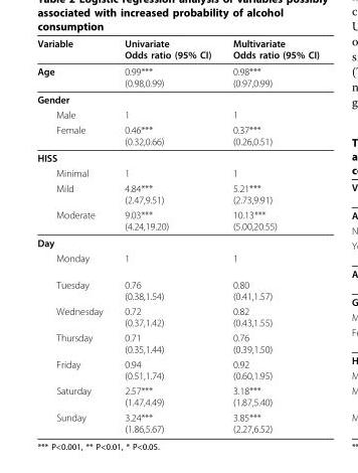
<table><thead><tr><td>Variable</td><td>Univariate Odds ratio (95% CI)</td><td>Multivariate Odds ratio (95% CI)</td></tr></thead><tbody><tr><td>Age</td><td>0.99*** (0.98,0.99)</td><td>0.98*** (0.97,0.99)</td></tr><tr><td colspan="3">Gender</td></tr><tr><td>Male</td><td>1</td><td>1</td></tr><tr><td>Female</td><td>0.46*** (0.32,0.66)</td><td>0.37*** (0.26,0.51)</td></tr><tr><td colspan="3">HISS</td></tr><tr><td>Minimal</td><td>1</td><td>1</td></tr><tr><td>Mild</td><td>4.84*** (2.47,9.51)</td><td>5.21*** (2.73,9.91)</td></tr><tr><td>Moderate</td><td>9.03*** (4.24,19.20)</td><td>10.13*** (5.00,20.55)</td></tr><tr><td colspan="3">Day</td></tr><tr><td>Monday</td><td>1</td><td>1</td></tr><tr><td>Tuesday</td><td>0.76 (0.38,1.54)</td><td>0.80 (0.41,1.57)</td></tr><tr><td>Wednesday</td><td>0.72 (0.37,1.42)</td><td>0.82 (0.43,1.55)</td></tr><tr><td>Thursday</td><td>0.71 (0.35,1.44)</td><td>0.76 (0.39,1.50)</td></tr><tr><td>Friday</td><td>0.94 (0.51,1.74)</td><td>0.92 (0.60,1.95)</td></tr><tr><td>Saturday</td><td>2.57*** (1.47,4.49)</td><td>3.18*** (1.87,5.40)</td></tr><tr><td>Sunday</td><td>3.24*** (1.86,5.67)</td><td>3.85*** (2.27,6.52)</td></tr></tbody></table>